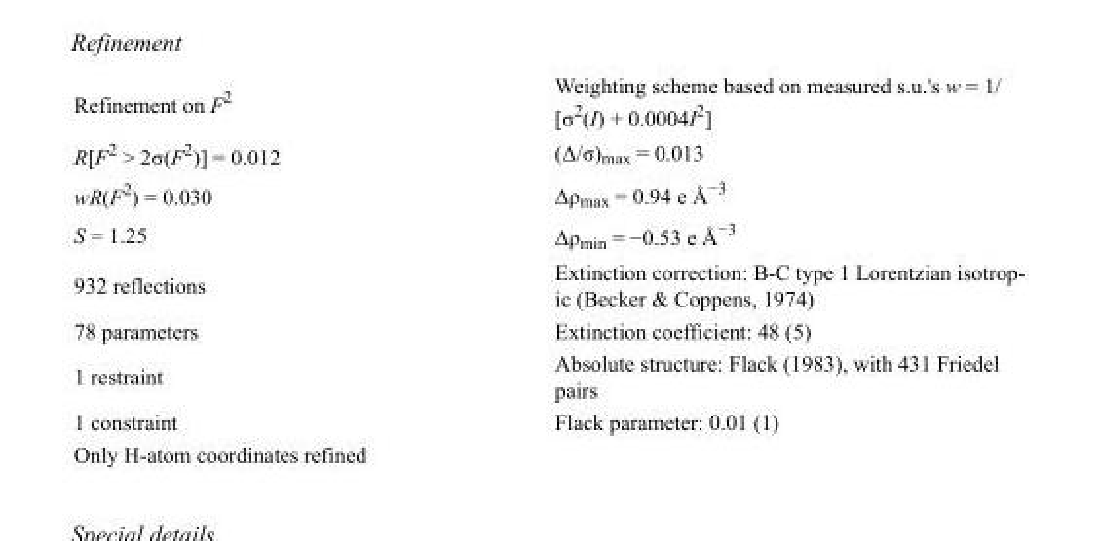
<table><tbody><tr><td>Refinement on F<sup>2</sup></td><td>Weighting scheme based on measured s.u.&#x27;s w = 1/ [σ<sup>2</sup>(I) + 0.0004I<sup>2</sup>]</td></tr><tr><td>R[F<sup>2</sup> &gt; 2σ(F<sup>2</sup>)] = 0.012</td><td>(Δ/σ)<sub>max</sub> = 0.013</td></tr><tr><td>wR(F<sup>2</sup>) = 0.030</td><td>Δρ<sub>max</sub> = 0.94 e Å<sup>−3</sup></td></tr><tr><td>S = 1.25</td><td>Δρ<sub>min</sub> = −0.53 e Å<sup>−3</sup></td></tr><tr><td>932 reflections</td><td>Extinction correction: B-C type 1 Lorentzian isotrop- ic (Becker &amp; Coppens, 1974)</td></tr><tr><td>78 parameters</td><td>Extinction coefficient: 48 (5)</td></tr><tr><td>1 restraint</td><td>Absolute structure: Flack (1983), with 431 Friedel pairs</td></tr><tr><td>1 constraint</td><td>Flack parameter: 0.01 (1)</td></tr><tr><td>Only H-atom coordinates refined</td><td></td></tr></tbody></table>